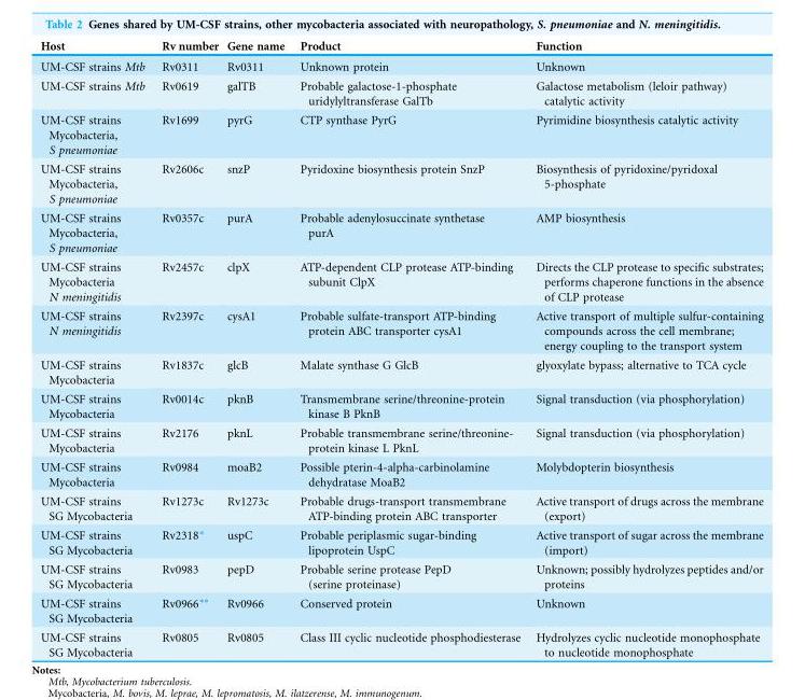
<table><thead><tr><td>Host</td><td>Rv number</td><td>Gene name</td><td>Product</td><td>Function</td></tr></thead><tbody><tr><td>UM-CSF strains Mtb</td><td>Rv0311</td><td>Rv0311</td><td>Unknown protein</td><td>Unknown</td></tr><tr><td>UM-CSF strains Mtb</td><td>Rv0619</td><td>galTB</td><td>Probable galactose-1-phosphate uridylyltransferase GalTb</td><td>Galactose metabolism (leloir pathway) catalytic activity</td></tr><tr><td>UM-CSF strains Mycobacteria, S pneumoniae</td><td>Rv1699</td><td>pyrG</td><td>CTP synthase PyrG</td><td>Pyrimidine biosynthesis catalytic activity</td></tr><tr><td>UM-CSF strains Mycobacteria, S pneumoniae</td><td>Rv2606c</td><td>snzP</td><td>Pyridoxine biosynthesis protein SnzP</td><td>Biosynthesis of pyridoxine/pyridoxal 5-phosphate</td></tr><tr><td>UM-CSF strains Mycobacteria, S pneumoniae</td><td>Rv0357c</td><td>purA</td><td>Probable adenylosuccinate synthetase purA</td><td>AMP biosynthesis</td></tr><tr><td>UM-CSF strains Mycobacteria N meningitidis</td><td>Rv2457c</td><td>clpX</td><td>ATP-dependent CLP protease ATP-binding subunit ClpX</td><td>Directs the CLP protease to specific substrates; performs chaperone functions in the absence of CLP protease</td></tr><tr><td>UM-CSF strains N meningitidis</td><td>Rv2397c</td><td>cysA1</td><td>Probable sulfate-transport ATP-binding protein ABC transporter cysA1</td><td>Active transport of multiple sulfur-containing compounds across the cell membrane; energy coupling to the transport system</td></tr><tr><td>UM-CSF strains Mycobacteria</td><td>Rv1837c</td><td>glcB</td><td>Malate synthase G GlcB</td><td>glyoxylate bypass; alternative to TCA cycle</td></tr><tr><td>UM-CSF strains Mycobacteria</td><td>Rv0014c</td><td>pknB</td><td>Transmembrane serine/threonine-protein kinase B PknB</td><td>Signal transduction (via phosphorylation)</td></tr><tr><td>UM-CSF strains Mycobacteria</td><td>Rv2176</td><td>pknL</td><td>Probable transmembrane serine/threonine- protein kinase L PknL</td><td>Signal transduction (via phosphorylation)</td></tr><tr><td>UM-CSF strains Mycobacteria</td><td>Rv0984</td><td>moaB2</td><td>Possible pterin-4-alpha-carbinolamine dehydratase MoaB2</td><td>Molybdopterin biosynthesis</td></tr><tr><td>UM-CSF strains SG Mycobacteria</td><td>Rv1273c</td><td>Rv1273c</td><td>Probable drugs-transport transmembrane ATP-binding protein ABC transporter</td><td>Active transport of drugs across the membrane (export)</td></tr><tr><td>UM-CSF strains SG Mycobacteria</td><td>Rv2318*</td><td>uspC</td><td>Probable periplasmic sugar-binding lipoprotein UspC</td><td>Active transport of sugar across the membrane (import)</td></tr><tr><td>UM-CSF strains SG Mycobacteria</td><td>Rv0983</td><td>pepD</td><td>Probable serine protease PepD (serine proteinase)</td><td>Unknown; possibly hydrolyzes peptides and/or proteins</td></tr><tr><td>UM-CSF strains SG Mycobacteria</td><td>Rv0966**</td><td>Rv0966</td><td>Conserved protein</td><td>Unknown</td></tr><tr><td>UM-CSF strains SG Mycobacteria</td><td>Rv0805</td><td>Rv0805</td><td>Class III cyclic nucleotide phosphodiesterase</td><td>Hydrolyzes cyclic nucleotide monophosphate to nucleotide monophosphate</td></tr></tbody></table>